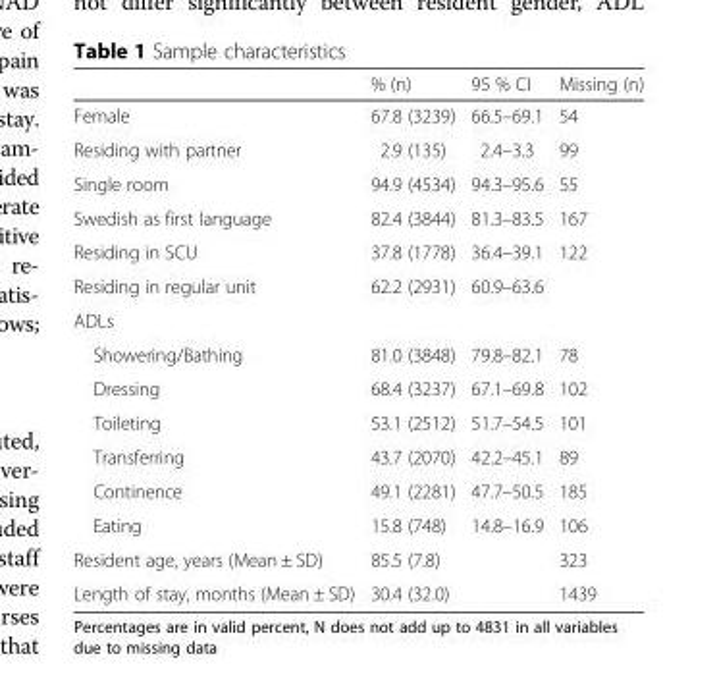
<table><thead><tr><td></td><td>% (n)</td><td>95 % CI</td><td>Missing (n)</td></tr></thead><tbody><tr><td>Female</td><td>67.8 (3239)</td><td>66.5–69.1</td><td>54</td></tr><tr><td>Residing with partner</td><td>2.9 (135)</td><td>2.4–3.3</td><td>99</td></tr><tr><td>Single room</td><td>94.9 (4534)</td><td>94.3–95.6</td><td>55</td></tr><tr><td>Swedish as first language</td><td>82.4 (3844)</td><td>81.3–83.5</td><td>167</td></tr><tr><td>Residing in SCU</td><td>37.8 (1778)</td><td>36.4–39.1</td><td rowspan="2">122</td></tr><tr><td>Residing in regular unit</td><td>62.2 (2931)</td><td>60.9–63.6</td></tr><tr><td colspan="4">ADLs</td></tr><tr><td>Showering/Bathing</td><td>81.0 (3848)</td><td>79.8–82.1</td><td>78</td></tr><tr><td>Dressing</td><td>68.4 (3237)</td><td>67.1–69.8</td><td>102</td></tr><tr><td>Toileting</td><td>53.1 (2512)</td><td>51.7–54.5</td><td>101</td></tr><tr><td>Transferring</td><td>43.7 (2070)</td><td>42.2–45.1</td><td>89</td></tr><tr><td>Continence</td><td>49.1 (2281)</td><td>47.7–50.5</td><td>185</td></tr><tr><td>Eating</td><td>15.8 (748)</td><td>14.8–16.9</td><td>106</td></tr><tr><td>Resident age, years (Mean ± SD)</td><td>85.5 (7.8)</td><td></td><td>323</td></tr><tr><td>Length of stay, months (Mean ± SD)</td><td>30.4 (32.0)</td><td></td><td>1439</td></tr></tbody></table>